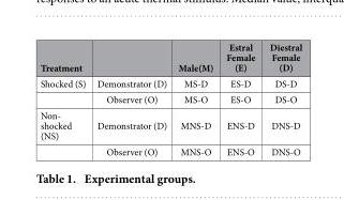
<table><thead><tr><td>Treatment</td><td></td><td>Male(M)</td><td>Estral Female (E)</td><td>Diestral Female (D)</td></tr></thead><tbody><tr><td rowspan="2">Shocked (S)</td><td>Demonstrator (D)</td><td>MS-D</td><td>ES-D</td><td>DS-D</td></tr><tr><td>Observer (O)</td><td>MS-O</td><td>ES-O</td><td>DS-O</td></tr><tr><td rowspan="2">Non- shocked (NS)</td><td>Demonstrator (D)</td><td>MNS-D</td><td>ENS-D</td><td>DNS-D</td></tr><tr><td>Observer (O)</td><td>MNS-O</td><td>ENS-O</td><td>DNS-O</td></tr></tbody></table>